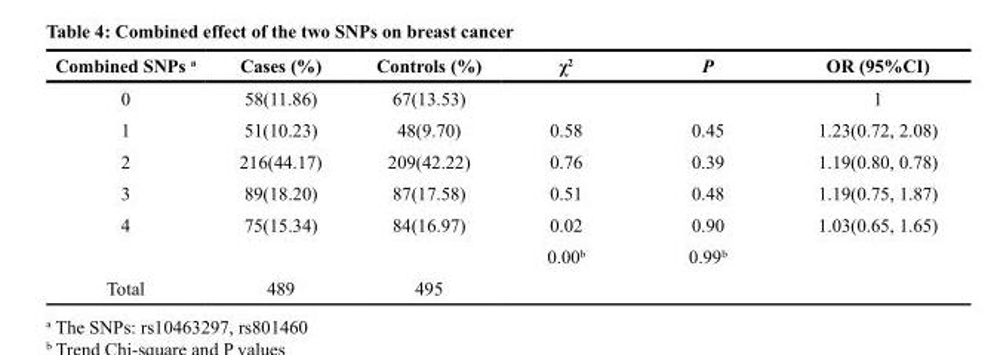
<table><thead><tr><td>Combined SNPs <sup>a</sup></td><td>Cases (%)</td><td>Controls (%)</td><td>χ<sup>2</sup></td><td>P</td><td>OR (95%CI)</td></tr></thead><tbody><tr><td>0</td><td>58(11.86)</td><td>67(13.53)</td><td></td><td></td><td>1</td></tr><tr><td>1</td><td>51(10.23)</td><td>48(9.70)</td><td>0.58</td><td>0.45</td><td>1.23(0.72, 2.08)</td></tr><tr><td>2</td><td>216(44.17)</td><td>209(42.22)</td><td>0.76</td><td>0.39</td><td>1.19(0.80, 0.78)</td></tr><tr><td>3</td><td>89(18.20)</td><td>87(17.58)</td><td>0.51</td><td>0.48</td><td>1.19(0.75, 1.87)</td></tr><tr><td rowspan="2">4</td><td>75(15.34)</td><td>84(16.97)</td><td>0.02</td><td>0.90</td><td>1.03(0.65, 1.65)</td></tr><tr><td></td><td></td><td>0.00<sup>b</sup></td><td>0.99<sup>b</sup></td><td></td></tr><tr><td>Total</td><td>489</td><td>495</td><td></td><td></td><td></td></tr></tbody></table>